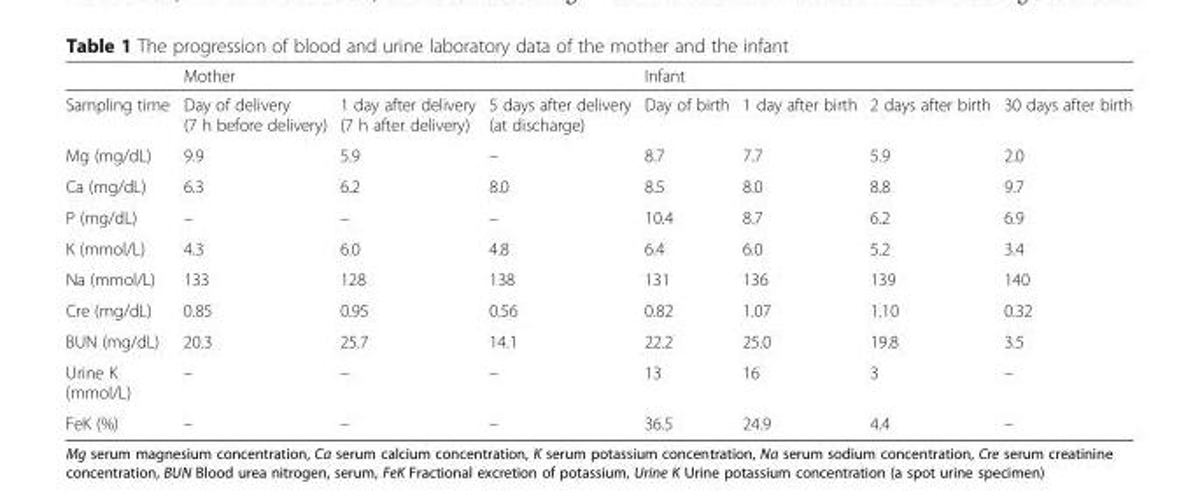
<table><thead><tr><td rowspan="2">Sampling time</td><td colspan="3">Mother</td><td colspan="4">Infant</td></tr><tr><td>Day of delivery (7 h before delivery)</td><td>1 day after delivery (7 h after delivery)</td><td>5 days after delivery (at discharge)</td><td>Day of birth</td><td>1 day after birth</td><td>2 days after birth</td><td>30 days after birth</td></tr></thead><tbody><tr><td>Mg (mg/dL)</td><td>9.9</td><td>5.9</td><td>–</td><td>8.7</td><td>7.7</td><td>5.9</td><td>2.0</td></tr><tr><td>Ca (mg/dL)</td><td>6.3</td><td>6.2</td><td>8.0</td><td>8.5</td><td>8.0</td><td>8.8</td><td>9.7</td></tr><tr><td>P (mg/dL)</td><td>–</td><td>–</td><td>–</td><td>10.4</td><td>8.7</td><td>6.2</td><td>6.9</td></tr><tr><td>K (mmol/L)</td><td>4.3</td><td>6.0</td><td>4.8</td><td>6.4</td><td>6.0</td><td>5.2</td><td>3.4</td></tr><tr><td>Na (mmol/L)</td><td>133</td><td>128</td><td>138</td><td>131</td><td>136</td><td>139</td><td>140</td></tr><tr><td>Cre (mg/dL)</td><td>0.85</td><td>0.95</td><td>0.56</td><td>0.82</td><td>1.07</td><td>1.10</td><td>0.32</td></tr><tr><td>BUN (mg/dL)</td><td>20.3</td><td>25.7</td><td>14.1</td><td>22.2</td><td>25.0</td><td>19.8</td><td>3.5</td></tr><tr><td>Urine K (mmol/L)</td><td>–</td><td>–</td><td>–</td><td>13</td><td>16</td><td>3</td><td>–</td></tr><tr><td>FeK (%)</td><td>–</td><td>–</td><td>–</td><td>36.5</td><td>24.9</td><td>4.4</td><td>–</td></tr></tbody></table>